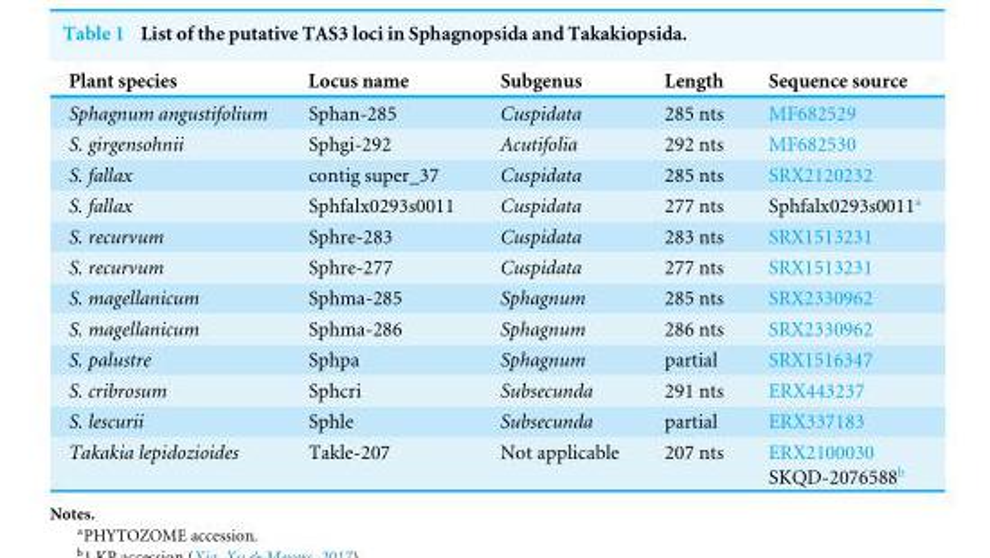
<table><thead><tr><td>Plant species</td><td>Locus name</td><td>Subgenus</td><td>Length</td><td>Sequence source</td></tr></thead><tbody><tr><td>Sphagnum angustifolium</td><td>Sphan-285</td><td>Cuspidata</td><td>285 nts</td><td>MF682529</td></tr><tr><td>S. girgensohnii</td><td>Sphgi-292</td><td>Acutifolia</td><td>292 nts</td><td>MF682530</td></tr><tr><td>S. fallax</td><td>contig super_37</td><td>Cuspidata</td><td>285 nts</td><td>SRX2120232</td></tr><tr><td>S. fallax</td><td>Sphfalx0293s0011</td><td>Cuspidata</td><td>277 nts</td><td>Sphfalx0293s0011<sup>a</sup></td></tr><tr><td>S. recurvum</td><td>Sphre-283</td><td>Cuspidata</td><td>283 nts</td><td>SRX1513231</td></tr><tr><td>S. recurvum</td><td>Sphre-277</td><td>Cuspidata</td><td>277 nts</td><td>SRX1513231</td></tr><tr><td>S. magellanicum</td><td>Sphma-285</td><td>Sphagnum</td><td>285 nts</td><td>SRX2330962</td></tr><tr><td>S. magellanicum</td><td>Sphma-286</td><td>Sphagnum</td><td>286 nts</td><td>SRX2330962</td></tr><tr><td>S. palustre</td><td>Sphpa</td><td>Sphagnum</td><td>partial</td><td>SRX1516347</td></tr><tr><td>S. cribrosum</td><td>Sphcri</td><td>Subsecunda</td><td>291 nts</td><td>ERX443237</td></tr><tr><td>S. lescurii</td><td>Sphle</td><td>Subsecunda</td><td>partial</td><td>ERX337183</td></tr><tr><td>Takakia lepidozioides</td><td>Takle-207</td><td>Not applicable</td><td>207 nts</td><td>ERX2100030 SKQD-2076588<sup>b</sup></td></tr></tbody></table>